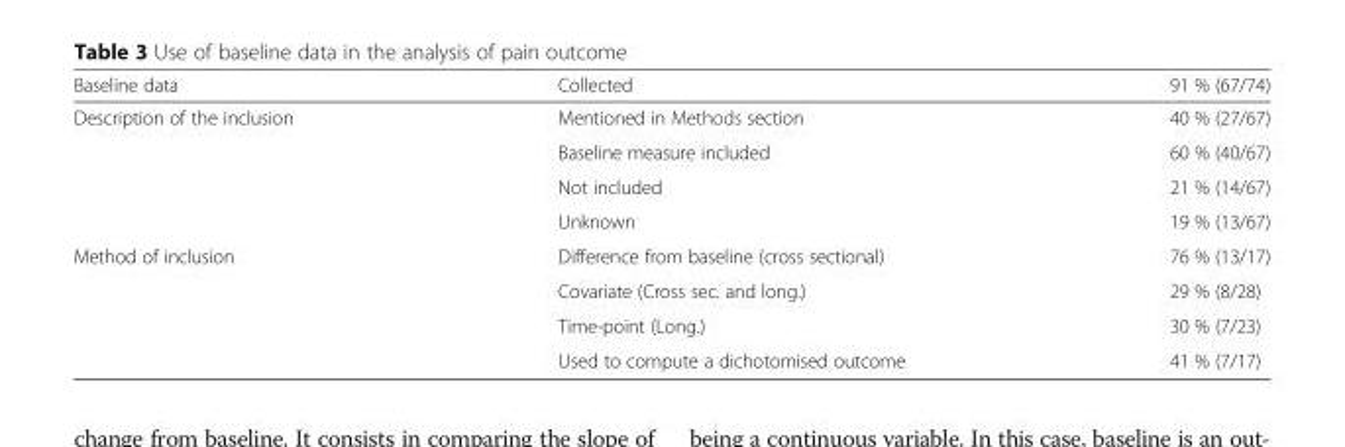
<table><thead><tr><td>Baseline data</td><td>Collected</td><td>91 % (67/74)</td></tr></thead><tbody><tr><td rowspan="4">Description of the inclusion</td><td>Mentioned in Methods section</td><td>40 % (27/67)</td></tr><tr><td>Baseline measure included</td><td>60 % (40/67)</td></tr><tr><td>Not included</td><td>21 % (14/67)</td></tr><tr><td>Unknown</td><td>19 % (13/67)</td></tr><tr><td rowspan="4">Method of inclusion</td><td>Difference from baseline (cross sectional)</td><td>76 % (13/17)</td></tr><tr><td>Covariate (Cross sec. and long.)</td><td>29 % (8/28)</td></tr><tr><td>Time-point (Long.)</td><td>30 % (7/23)</td></tr><tr><td>Used to compute a dichotomised outcome</td><td>41 % (7/17)</td></tr></tbody></table>